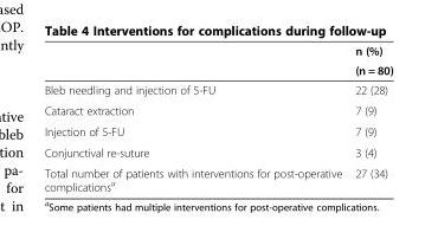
<table><thead><tr><td rowspan="2"></td><td rowspan="2">n (%) (n = 80)</td></tr><tr></tr></thead><tbody><tr><td>Bleb needling and injection of 5-FU</td><td>22 (28)</td></tr><tr><td>Cataract extraction</td><td>7 (9)</td></tr><tr><td>Injection of 5-FU</td><td>7 (9)</td></tr><tr><td>Conjunctival re-suture</td><td>3 (4)</td></tr><tr><td>Total number of patients with interventions for post-operative complications<sup>a</sup></td><td>27 (34)</td></tr></tbody></table>